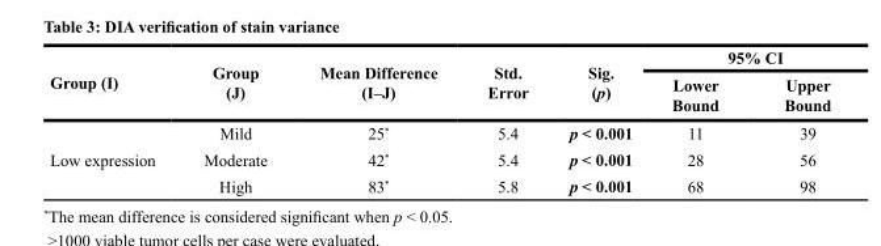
<table><thead><tr><td rowspan="2">Group (I)</td><td rowspan="2">Group (J)</td><td rowspan="2">Mean Difference (I–J)</td><td rowspan="2">Std. Error</td><td rowspan="2">Sig. (p)</td><td colspan="2">95% CI</td></tr><tr><td>Lower Bound</td><td>Upper Bound</td></tr></thead><tbody><tr><td rowspan="3">Low expression</td><td>Mild</td><td>25*</td><td>5.4</td><td>p &lt; 0.001</td><td>11</td><td>39</td></tr><tr><td>Moderate</td><td>42*</td><td>5.4</td><td>p &lt; 0.001</td><td>28</td><td>56</td></tr><tr><td>High</td><td>83*</td><td>5.8</td><td>p &lt; 0.001</td><td>68</td><td>98</td></tr></tbody></table>